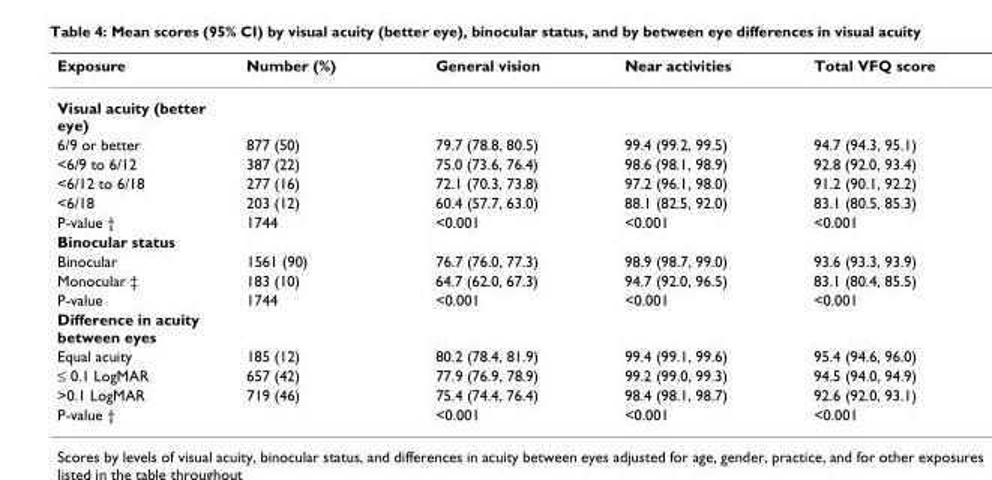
<table><thead><tr><td>Exposure</td><td>Number (%)</td><td>General vision</td><td>Near activities</td><td>Total VFQ score</td></tr></thead><tbody><tr><td colspan="5">Visual acuity (better eye)</td></tr><tr><td>6/9 or better</td><td>877 (50)</td><td>79.7 (78.8, 80.5)</td><td>99.4 (99.2, 99.5)</td><td>94.7 (94.3, 95.1)</td></tr><tr><td>&lt;6/9 to 6/12</td><td>387 (22)</td><td>75.0 (73.6, 76.4)</td><td>98.6 (98.1, 98.9)</td><td>92.8 (92.0, 93.4)</td></tr><tr><td>&lt;6/12 to 6/18</td><td>277 (16)</td><td>72.1 (70.3, 73.8)</td><td>97.2 (96.1, 98.0)</td><td>91.2 (90.1, 92.2)</td></tr><tr><td>&lt;6/18</td><td>203 (12)</td><td>60.4 (57.7, 63.0)</td><td>88.1 (82.5, 92.0)</td><td>83.1 (80.5, 85.3)</td></tr><tr><td>P-value †</td><td>1744</td><td>&lt;0.001</td><td>&lt;0.001</td><td>&lt;0.001</td></tr><tr><td colspan="5">Binocular status</td></tr><tr><td>Binocular</td><td>1561 (90)</td><td>76.7 (76.0, 77.3)</td><td>98.9 (98.7, 99.0)</td><td>93.6 (93.3, 93.9)</td></tr><tr><td>Monocular ‡</td><td>183 (10)</td><td>64.7 (62.0, 67.3)</td><td>94.7 (92.0, 96.5)</td><td>83.1 (80.4, 85.5)</td></tr><tr><td>P-value</td><td>1744</td><td>&lt;0.001</td><td>&lt;0.001</td><td>&lt;0.001</td></tr><tr><td colspan="5">Difference in acuity between eyes</td></tr><tr><td>Equal acuity</td><td>185 (12)</td><td>80.2 (78.4, 81.9)</td><td>99.4 (99.1, 99.6)</td><td>95.4 (94.6, 96.0)</td></tr><tr><td>≤ 0.1 LogMAR</td><td>657 (42)</td><td>77.9 (76.9, 78.9)</td><td>99.2 (99.0, 99.3)</td><td>94.5 (94.0, 94.9)</td></tr><tr><td>&gt;0.1 LogMAR</td><td>719 (46)</td><td>75.4 (74.4, 76.4)</td><td>98.4 (98.1, 98.7)</td><td>92.6 (92.0, 93.1)</td></tr><tr><td>P-value †</td><td></td><td>&lt;0.001</td><td>&lt;0.001</td><td>&lt;0.001</td></tr></tbody></table>